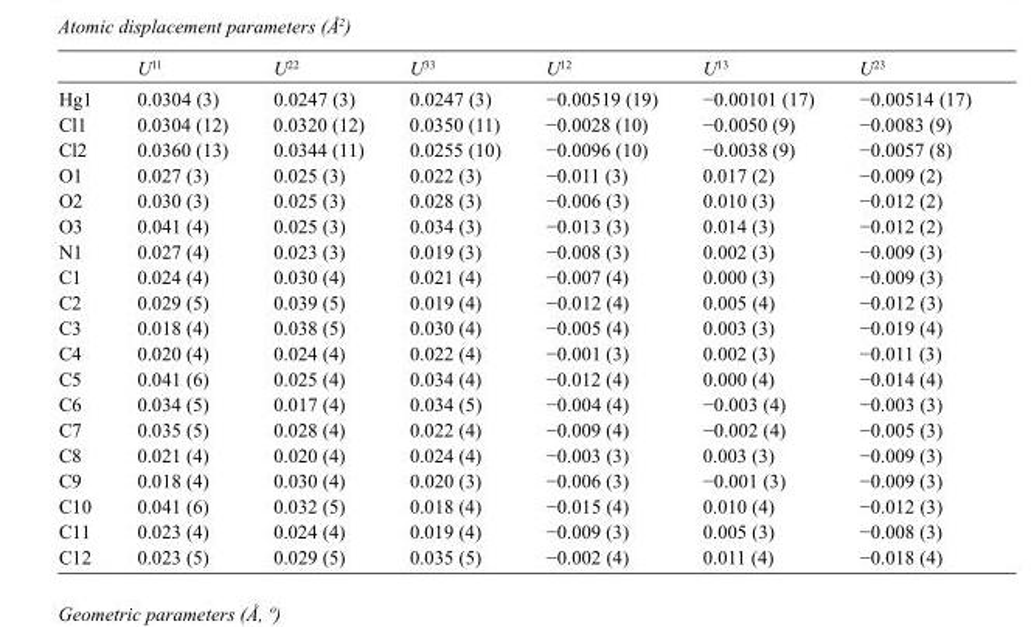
<table><thead><tr><td></td><td>U<sup>11</sup></td><td>U<sup>22</sup></td><td>U<sup>33</sup></td><td>U<sup>12</sup></td><td>U<sup>13</sup></td><td>U<sup>23</sup></td></tr></thead><tbody><tr><td>Hg1</td><td>0.0304 (3)</td><td>0.0247 (3)</td><td>0.0247 (3)</td><td>−0.00519 (19)</td><td>−0.00101 (17)</td><td>−0.00514 (17)</td></tr><tr><td>Cl1</td><td>0.0304 (12)</td><td>0.0320 (12)</td><td>0.0350 (11)</td><td>−0.0028 (10)</td><td>−0.0050 (9)</td><td>−0.0083 (9)</td></tr><tr><td>Cl2</td><td>0.0360 (13)</td><td>0.0344 (11)</td><td>0.0255 (10)</td><td>−0.0096 (10)</td><td>−0.0038 (9)</td><td>−0.0057 (8)</td></tr><tr><td>O1</td><td>0.027 (3)</td><td>0.025 (3)</td><td>0.022 (3)</td><td>−0.011 (3)</td><td>0.017 (2)</td><td>−0.009 (2)</td></tr><tr><td>O2</td><td>0.030 (3)</td><td>0.025 (3)</td><td>0.028 (3)</td><td>−0.006 (3)</td><td>0.010 (3)</td><td>−0.012 (2)</td></tr><tr><td>O3</td><td>0.041 (4)</td><td>0.025 (3)</td><td>0.034 (3)</td><td>−0.013 (3)</td><td>0.014 (3)</td><td>−0.012 (2)</td></tr><tr><td>N1</td><td>0.027 (4)</td><td>0.023 (3)</td><td>0.019 (3)</td><td>−0.008 (3)</td><td>0.002 (3)</td><td>−0.009 (3)</td></tr><tr><td>C1</td><td>0.024 (4)</td><td>0.030 (4)</td><td>0.021 (4)</td><td>−0.007 (4)</td><td>0.000 (3)</td><td>−0.009 (3)</td></tr><tr><td>C2</td><td>0.029 (5)</td><td>0.039 (5)</td><td>0.019 (4)</td><td>−0.012 (4)</td><td>0.005 (4)</td><td>−0.012 (3)</td></tr><tr><td>C3</td><td>0.018 (4)</td><td>0.038 (5)</td><td>0.030 (4)</td><td>−0.005 (4)</td><td>0.003 (3)</td><td>−0.019 (4)</td></tr><tr><td>C4</td><td>0.020 (4)</td><td>0.024 (4)</td><td>0.022 (4)</td><td>−0.001 (3)</td><td>0.002 (3)</td><td>−0.011 (3)</td></tr><tr><td>C5</td><td>0.041 (6)</td><td>0.025 (4)</td><td>0.034 (4)</td><td>−0.012 (4)</td><td>0.000 (4)</td><td>−0.014 (4)</td></tr><tr><td>C6</td><td>0.034 (5)</td><td>0.017 (4)</td><td>0.034 (5)</td><td>−0.004 (4)</td><td>−0.003 (4)</td><td>−0.003 (3)</td></tr><tr><td>C7</td><td>0.035 (5)</td><td>0.028 (4)</td><td>0.022 (4)</td><td>−0.009 (4)</td><td>−0.002 (4)</td><td>−0.005 (3)</td></tr><tr><td>C8</td><td>0.021 (4)</td><td>0.020 (4)</td><td>0.024 (4)</td><td>−0.003 (3)</td><td>0.003 (3)</td><td>−0.009 (3)</td></tr><tr><td>C9</td><td>0.018 (4)</td><td>0.030 (4)</td><td>0.020 (3)</td><td>−0.006 (3)</td><td>−0.001 (3)</td><td>−0.009 (3)</td></tr><tr><td>C10</td><td>0.041 (6)</td><td>0.032 (5)</td><td>0.018 (4)</td><td>−0.015 (4)</td><td>0.010 (4)</td><td>−0.012 (3)</td></tr><tr><td>C11</td><td>0.023 (4)</td><td>0.024 (4)</td><td>0.019 (4)</td><td>−0.009 (3)</td><td>0.005 (3)</td><td>−0.008 (3)</td></tr><tr><td>C12</td><td>0.023 (5)</td><td>0.029 (5)</td><td>0.035 (5)</td><td>−0.002 (4)</td><td>0.011 (4)</td><td>−0.018 (4)</td></tr></tbody></table>